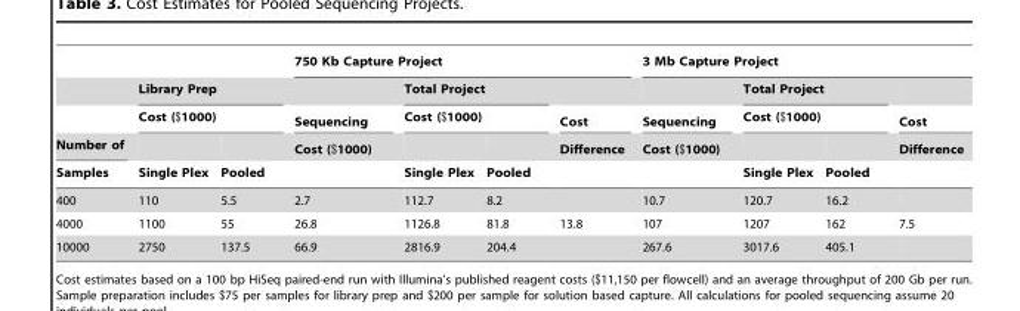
<table><thead><tr><td rowspan="5">Number of Samples</td><td></td><td></td><td colspan="4">750 Kb Capture Project</td><td colspan="4">3 Mb Capture Project</td></tr><tr><td rowspan="2" colspan="2">Library Prep Cost ($1000)</td><td rowspan="4">Sequencing Cost ($1000)</td><td rowspan="2" colspan="2">Total Project Cost ($1000)</td><td rowspan="4">Cost Difference</td><td rowspan="4">Sequencing Cost ($1000)</td><td rowspan="2" colspan="2">Total Project Cost ($1000)</td><td rowspan="4">Cost Difference</td></tr><tr></tr><tr><td rowspan="2">Single Plex</td><td rowspan="2">Pooled</td><td rowspan="2">Single Plex</td><td rowspan="2">Pooled</td><td rowspan="2">Single Plex</td><td rowspan="2">Pooled</td></tr><tr></tr></thead><tbody><tr><td>400</td><td>110</td><td>5.5</td><td>2.7</td><td>112.7</td><td>8.2</td><td></td><td>10.7</td><td>120.7</td><td>16.2</td><td></td></tr><tr><td>4000</td><td>1100</td><td>55</td><td>26.8</td><td>1126.8</td><td>81.8</td><td>13.8</td><td>107</td><td>1207</td><td>162</td><td>7.5</td></tr><tr><td>10000</td><td>2750</td><td>137.5</td><td>66.9</td><td>2816.9</td><td>204.4</td><td></td><td>267.6</td><td>3017.6</td><td>405.1</td><td></td></tr></tbody></table>